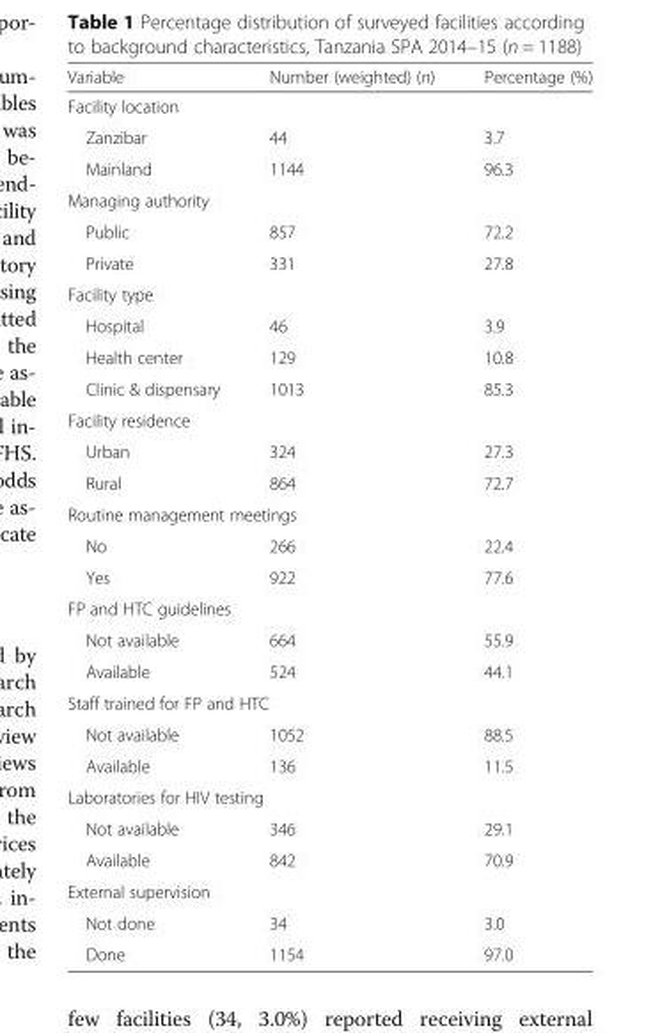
<table><thead><tr><td>Variable</td><td>Number (weighted) (n)</td><td>Percentage (%)</td></tr></thead><tbody><tr><td colspan="3">Facility location</td></tr><tr><td>Zanzibar</td><td>44</td><td>3.7</td></tr><tr><td>Mainland</td><td>1144</td><td>96.3</td></tr><tr><td colspan="3">Managing authority</td></tr><tr><td>Public</td><td>857</td><td>72.2</td></tr><tr><td>Private</td><td>331</td><td>27.8</td></tr><tr><td colspan="3">Facility type</td></tr><tr><td>Hospital</td><td>46</td><td>3.9</td></tr><tr><td>Health center</td><td>129</td><td>10.8</td></tr><tr><td>Clinic &amp; dispensary</td><td>1013</td><td>85.3</td></tr><tr><td colspan="3">Facility residence</td></tr><tr><td>Urban</td><td>324</td><td>27.3</td></tr><tr><td>Rural</td><td>864</td><td>72.7</td></tr><tr><td colspan="3">Routine management meetings</td></tr><tr><td>No</td><td>266</td><td>22.4</td></tr><tr><td>Yes</td><td>922</td><td>77.6</td></tr><tr><td colspan="3">FP and HTC guidelines</td></tr><tr><td>Not available</td><td>664</td><td>55.9</td></tr><tr><td>Available</td><td>524</td><td>44.1</td></tr><tr><td colspan="3">Staff trained for FP and HTC</td></tr><tr><td>Not available</td><td>1052</td><td>88.5</td></tr><tr><td>Available</td><td>136</td><td>11.5</td></tr><tr><td colspan="3">Laboratories for HIV testing</td></tr><tr><td>Not available</td><td>346</td><td>29.1</td></tr><tr><td>Available</td><td>842</td><td>70.9</td></tr><tr><td colspan="3">External supervision</td></tr><tr><td>Not done</td><td>34</td><td>3.0</td></tr><tr><td>Done</td><td>1154</td><td>97.0</td></tr></tbody></table>